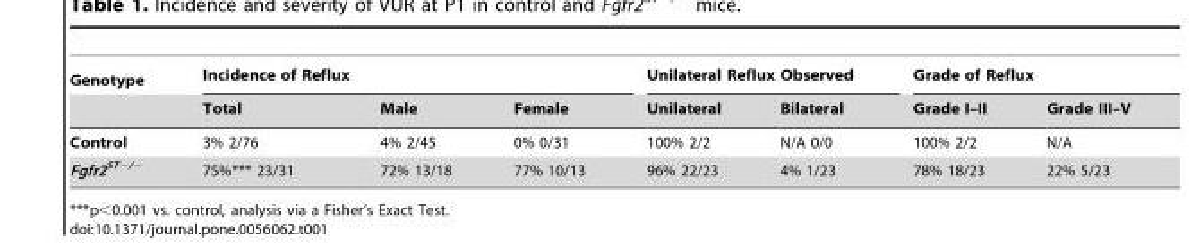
<table><thead><tr><td rowspan="2">Genotype</td><td colspan="3">Incidence of Reflux</td><td colspan="2">Unilateral Reflux Observed</td><td colspan="2">Grade of Reflux</td></tr><tr><td>Total</td><td>Male</td><td>Female</td><td>Unilateral</td><td>Bilateral</td><td>Grade I–II</td><td>Grade III–V</td></tr></thead><tbody><tr><td>Control</td><td>3% 2/76</td><td>4% 2/45</td><td>0% 0/31</td><td>100% 2/2</td><td>N/A 0/0</td><td>100% 2/2</td><td>N/A</td></tr><tr><td>Fgfr2<sup>ST−/−</sup></td><td>75%*** 23/31</td><td>72% 13/18</td><td>77% 10/13</td><td>96% 22/23</td><td>4% 1/23</td><td>78% 18/23</td><td>22% 5/23</td></tr></tbody></table>